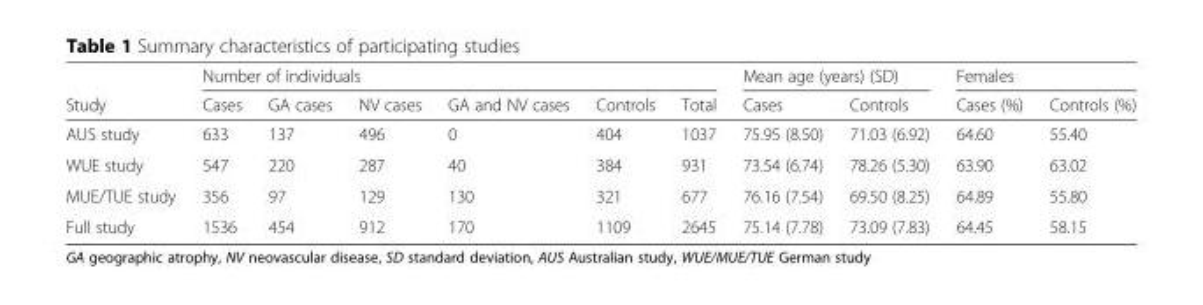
<table><thead><tr><td rowspan="2">Study</td><td colspan="6">Number of individuals</td><td colspan="2">Mean age (years) (SD)</td><td colspan="2">Females</td></tr><tr><td>Cases</td><td>GA cases</td><td>NV cases</td><td>GA and NV cases</td><td>Controls</td><td>Total</td><td>Cases</td><td>Controls</td><td>Cases (%)</td><td>Controls (%)</td></tr></thead><tbody><tr><td>AUS study</td><td>633</td><td>137</td><td>496</td><td>0</td><td>404</td><td>1037</td><td>75.95 (8.50)</td><td>71.03 (6.92)</td><td>64.60</td><td>55.40</td></tr><tr><td>WUE study</td><td>547</td><td>220</td><td>287</td><td>40</td><td>384</td><td>931</td><td>73.54 (6.74)</td><td>78.26 (5.30)</td><td>63.90</td><td>63.02</td></tr><tr><td>MUE/TUE study</td><td>356</td><td>97</td><td>129</td><td>130</td><td>321</td><td>677</td><td>76.16 (7.54)</td><td>69.50 (8.25)</td><td>64.89</td><td>55.80</td></tr><tr><td>Full study</td><td>1536</td><td>454</td><td>912</td><td>170</td><td>1109</td><td>2645</td><td>75.14 (7.78)</td><td>73.09 (7.83)</td><td>64.45</td><td>58.15</td></tr></tbody></table>